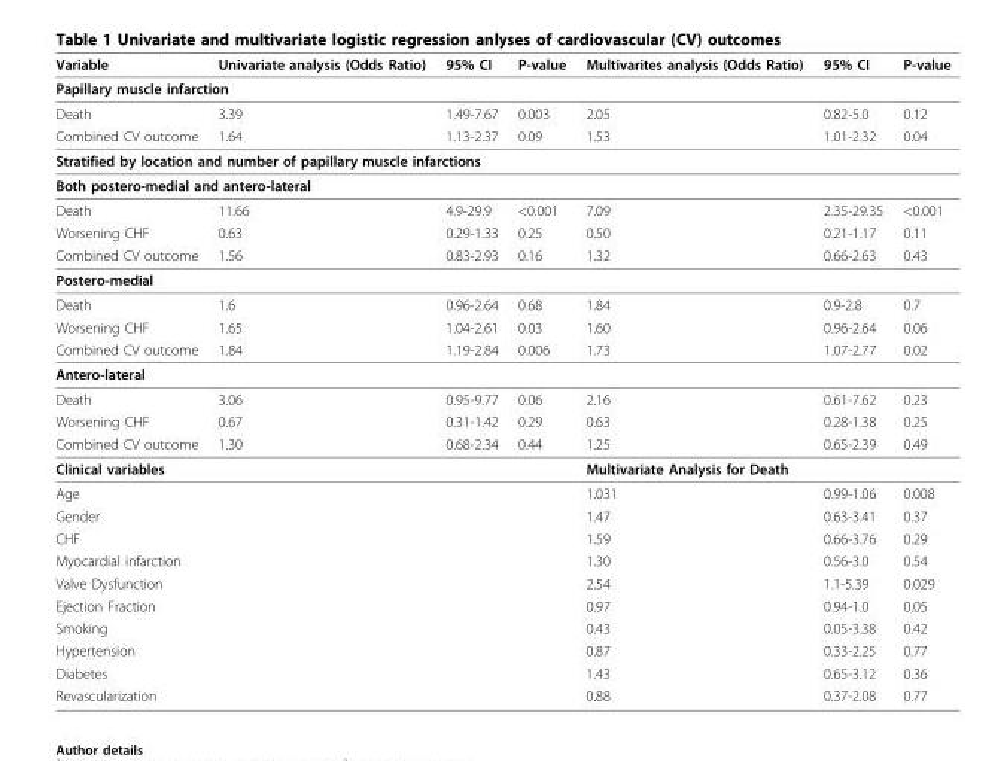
<table><thead><tr><td>Variable</td><td>Univariate analysis (Odds Ratio)</td><td>95% CI</td><td>P-value</td><td>Multivarites analysis (Odds Ratio)</td><td>95% CI</td><td>P-value</td></tr></thead><tbody><tr><td colspan="7">Papillary muscle infarction</td></tr><tr><td>Death</td><td>3.39</td><td>1.49-7.67</td><td>0.003</td><td>2.05</td><td>0.82-5.0</td><td>0.12</td></tr><tr><td>Combined CV outcome</td><td>1.64</td><td>1.13-2.37</td><td>0.09</td><td>1.53</td><td>1.01-2.32</td><td>0.04</td></tr><tr><td colspan="7">Stratified by location and number of papillary muscle infarctions</td></tr><tr><td colspan="7">Both postero-medial and antero-lateral</td></tr><tr><td>Death</td><td>11.66</td><td>4.9-29.9</td><td>&lt;0.001</td><td>7.09</td><td>2.35-29.35</td><td>&lt;0.001</td></tr><tr><td>Worsening CHF</td><td>0.63</td><td>0.29-1.33</td><td>0.25</td><td>0.50</td><td>0.21-1.17</td><td>0.11</td></tr><tr><td>Combined CV outcome</td><td>1.56</td><td>0.83-2.93</td><td>0.16</td><td>1.32</td><td>0.66-2.63</td><td>0.43</td></tr><tr><td colspan="7">Postero-medial</td></tr><tr><td>Death</td><td>1.6</td><td>0.96-2.64</td><td>0.68</td><td>1.84</td><td>0.9-2.8</td><td>0.7</td></tr><tr><td>Worsening CHF</td><td>1.65</td><td>1.04-2.61</td><td>0.03</td><td>1.60</td><td>0.96-2.64</td><td>0.06</td></tr><tr><td>Combined CV outcome</td><td>1.84</td><td>1.19-2.84</td><td>0.006</td><td>1.73</td><td>1.07-2.77</td><td>0.02</td></tr><tr><td colspan="7">Antero-lateral</td></tr><tr><td>Death</td><td>3.06</td><td>0.95-9.77</td><td>0.06</td><td>2.16</td><td>0.61-7.62</td><td>0.23</td></tr><tr><td>Worsening CHF</td><td>0.67</td><td>0.31-1.42</td><td>0.29</td><td>0.63</td><td>0.28-1.38</td><td>0.25</td></tr><tr><td>Combined CV outcome</td><td>1.30</td><td>0.68-2.34</td><td>0.44</td><td>1.25</td><td>0.65-2.39</td><td>0.49</td></tr><tr><td colspan="4">Clinical variables</td><td colspan="3">Multivariate Analysis for Death</td></tr><tr><td>Age</td><td></td><td></td><td></td><td>1.031</td><td>0.99-1.06</td><td>0.008</td></tr><tr><td>Gender</td><td></td><td></td><td></td><td>1.47</td><td>0.63-3.41</td><td>0.37</td></tr><tr><td>CHF</td><td></td><td></td><td></td><td>1.59</td><td>0.66-3.76</td><td>0.29</td></tr><tr><td>Myocardial infarction</td><td></td><td></td><td></td><td>1.30</td><td>0.56-3.0</td><td>0.54</td></tr><tr><td>Valve Dysfunction</td><td></td><td></td><td></td><td>2.54</td><td>1.1-5.39</td><td>0.029</td></tr><tr><td>Ejection Fraction</td><td></td><td></td><td></td><td>0.97</td><td>0.94-1.0</td><td>0.05</td></tr><tr><td>Smoking</td><td></td><td></td><td></td><td>0.43</td><td>0.05-3.38</td><td>0.42</td></tr><tr><td>Hypertension</td><td></td><td></td><td></td><td>0.87</td><td>0.33-2.25</td><td>0.77</td></tr><tr><td>Diabetes</td><td></td><td></td><td></td><td>1.43</td><td>0.65-3.12</td><td>0.36</td></tr><tr><td>Revascularization</td><td></td><td></td><td></td><td>0.88</td><td>0.37-2.08</td><td>0.77</td></tr></tbody></table>